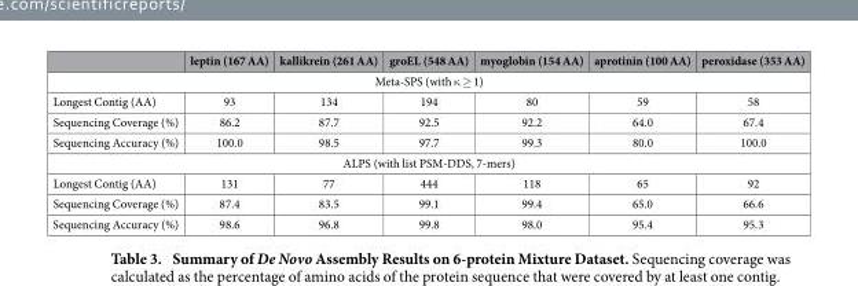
<table><thead><tr><td></td><td>leptin (167 AA)</td><td>kallikrein (261 AA)</td><td>groEL (548 AA)</td><td>myoglobin (154 AA)</td><td>aprotinin (100 AA)</td><td>peroxidase (353 AA)</td></tr></thead><tbody><tr><td colspan="7">Meta-SPS (with κ ≥ 1)</td></tr><tr><td>Longest Contig (AA)</td><td>93</td><td>134</td><td>194</td><td>80</td><td>59</td><td>58</td></tr><tr><td>Sequencing Coverage (%)</td><td>86.2</td><td>87.7</td><td>92.5</td><td>92.2</td><td>64.0</td><td>67.4</td></tr><tr><td>Sequencing Accuracy (%)</td><td>100.0</td><td>98.5</td><td>97.7</td><td>99.3</td><td>80.0</td><td>100.0</td></tr><tr><td colspan="7">ALPS (with list PSM-DDS, 7-mers)</td></tr><tr><td>Longest Contig (AA)</td><td>131</td><td>77</td><td>444</td><td>118</td><td>65</td><td>92</td></tr><tr><td>Sequencing Coverage (%)</td><td>87.4</td><td>83.5</td><td>99.1</td><td>99.4</td><td>65.0</td><td>66.6</td></tr><tr><td>Sequencing Accuracy (%)</td><td>98.6</td><td>96.8</td><td>99.8</td><td>98.0</td><td>95.4</td><td>95.3</td></tr></tbody></table>